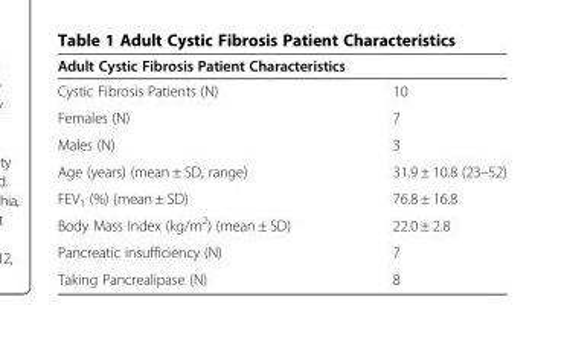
<table><thead><tr><td colspan="2">Adult Cystic Fibrosis Patient Characteristics</td></tr><tr><td>Cystic Fibrosis Patients (N)</td><td>10</td></tr></thead><tbody><tr><td>Females (N)</td><td>7</td></tr><tr><td>Males (N)</td><td>3</td></tr><tr><td>Age (years) (mean ± SD, range)</td><td>31.9 ± 10.8 (23–52)</td></tr><tr><td>FEV<sub>1</sub> (%) (mean ± SD)</td><td>76.8 ± 16.8</td></tr><tr><td>Body Mass Index (kg/m<sup>2</sup>) (mean ± SD)</td><td>22.0 ± 2.8</td></tr><tr><td>Pancreatic insufficiency (N)</td><td>7</td></tr><tr><td>Taking Pancrealipase (N)</td><td>8</td></tr></tbody></table>